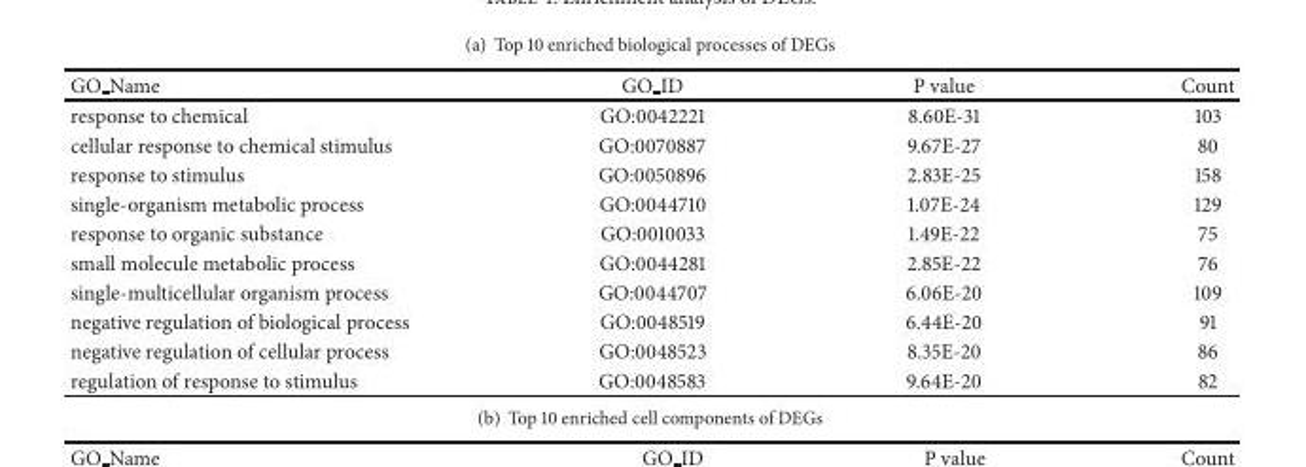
<table><thead><tr><td>GO Name</td><td>GO ID</td><td>P value</td><td>Count</td></tr></thead><tbody><tr><td>response to chemical</td><td>GO:0042221</td><td>8.60E-31</td><td>103</td></tr><tr><td>cellular response to chemical stimulus</td><td>GO:0070887</td><td>9.67E-27</td><td>80</td></tr><tr><td>response to stimulus</td><td>GO:0050896</td><td>2.83E-25</td><td>158</td></tr><tr><td>single-organism metabolic process</td><td>GO:0044710</td><td>1.07E-24</td><td>129</td></tr><tr><td>response to organic substance</td><td>GO:0010033</td><td>1.49E-22</td><td>75</td></tr><tr><td>small molecule metabolic process</td><td>GO:0044281</td><td>2.85E-22</td><td>76</td></tr><tr><td>single-multicellular organism process</td><td>GO:0044707</td><td>6.06E-20</td><td>109</td></tr><tr><td>negative regulation of biological process</td><td>GO:0048519</td><td>6.44E-20</td><td>91</td></tr><tr><td>negative regulation of cellular process</td><td>GO:0048523</td><td>8.35E-20</td><td>86</td></tr><tr><td>regulation of response to stimulus</td><td>GO:0048583</td><td>9.64E-20</td><td>82</td></tr></tbody></table>